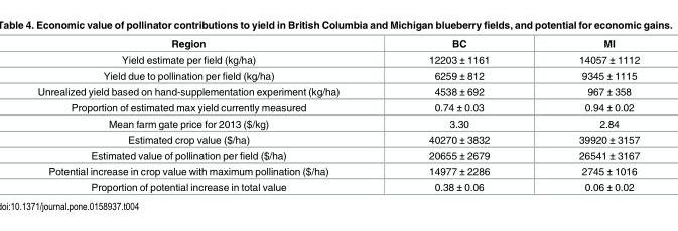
<table><thead><tr><td>Region</td><td>BC</td><td>MI</td></tr></thead><tbody><tr><td>Yield estimate per field (kg/ha)</td><td>12203 ± 1161</td><td>14057 ± 1112</td></tr><tr><td>Yield due to pollination per field (kg/ha)</td><td>6259 ± 812</td><td>9345 ± 1115</td></tr><tr><td>Unrealized yield based on hand-supplementation experiment (kg/ha)</td><td>4538 ± 692</td><td>967 ± 358</td></tr><tr><td>Proportion of estimated max yield currently measured</td><td>0.74 ± 0.03</td><td>0.94 ± 0.02</td></tr><tr><td>Mean farm gate price for 2013 ($/kg)</td><td>3.30</td><td>2.84</td></tr><tr><td>Estimated crop value ($/ha)</td><td>40270 ± 3832</td><td>39920 ± 3157</td></tr><tr><td>Estimated value of pollination per field ($/ha)</td><td>20655 ± 2679</td><td>26541 ± 3167</td></tr><tr><td>Potential increase in crop value with maximum pollination ($/ha)</td><td>14977 ± 2286</td><td>2745 ± 1016</td></tr><tr><td>Proportion of potential increase in total value</td><td>0.38 ± 0.06</td><td>0.06 ± 0.02</td></tr></tbody></table>